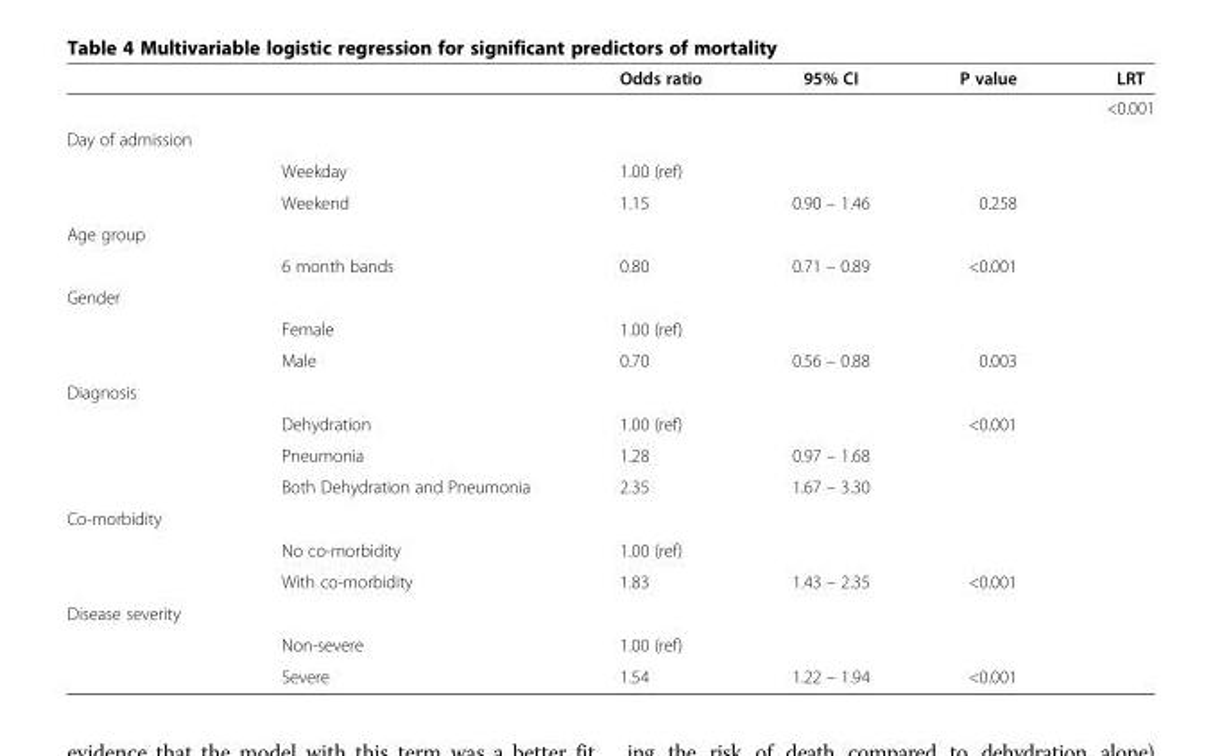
<table><thead><tr><td></td><td></td><td>Odds ratio</td><td>95% CI</td><td>P value</td><td>LRT</td></tr></thead><tbody><tr><td></td><td></td><td></td><td></td><td></td><td>&lt;0.001</td></tr><tr><td colspan="6">Day of admission</td></tr><tr><td></td><td>Weekday</td><td>1.00 (ref)</td><td></td><td></td><td></td></tr><tr><td></td><td>Weekend</td><td>1.15</td><td>0.90 – 1.46</td><td>0.258</td><td></td></tr><tr><td colspan="6">Age group</td></tr><tr><td></td><td>6 month bands</td><td>0.80</td><td>0.71 – 0.89</td><td>&lt;0.001</td><td></td></tr><tr><td colspan="6">Gender</td></tr><tr><td></td><td>Female</td><td>1.00 (ref)</td><td></td><td></td><td></td></tr><tr><td></td><td>Male</td><td>0.70</td><td>0.56 – 0.88</td><td>0.003</td><td></td></tr><tr><td colspan="6">Diagnosis</td></tr><tr><td></td><td>Dehydration</td><td>1.00 (ref)</td><td></td><td>&lt;0.001</td><td></td></tr><tr><td></td><td>Pneumonia</td><td>1.28</td><td>0.97 – 1.68</td><td></td><td></td></tr><tr><td></td><td>Both Dehydration and Pneumonia</td><td>2.35</td><td>1.67 – 3.30</td><td></td><td></td></tr><tr><td colspan="6">Co-morbidity</td></tr><tr><td></td><td>No co-morbidity</td><td>1.00 (ref)</td><td></td><td></td><td></td></tr><tr><td></td><td>With co-morbidity</td><td>1.83</td><td>1.43 – 2.35</td><td>&lt;0.001</td><td></td></tr><tr><td colspan="6">Disease severity</td></tr><tr><td></td><td>Non-severe</td><td>1.00 (ref)</td><td></td><td></td><td></td></tr><tr><td></td><td>Severe</td><td>1.54</td><td>1.22 – 1.94</td><td>&lt;0.001</td><td></td></tr></tbody></table>